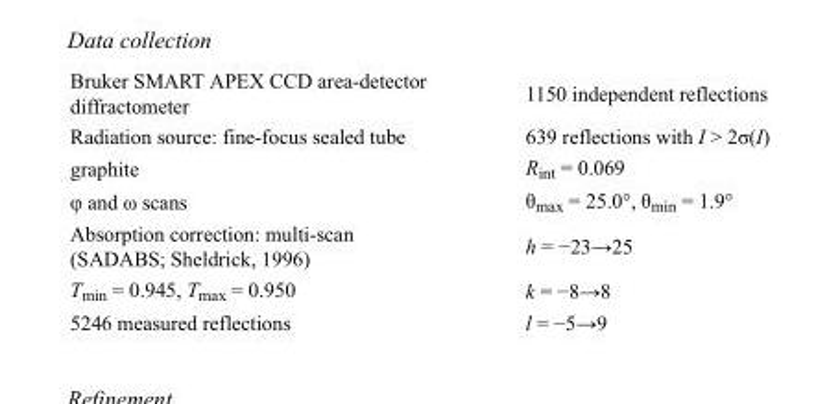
<table><tbody><tr><td>Bruker SMART APEX CCD area-detector diffractometer</td><td>1150 independent reflections</td></tr><tr><td>Radiation source: fine-focus sealed tube</td><td>639 reflections with I &gt; 2σ(I)</td></tr><tr><td>graphite</td><td>R<sub>int</sub> = 0.069</td></tr><tr><td>φ and ω scans</td><td>θ<sub>max</sub> = 25.0°, θ<sub>min</sub> = 1.9°</td></tr><tr><td>Absorption correction: multi-scan (SADABS; Sheldrick, 1996)</td><td>h = −23→25</td></tr><tr><td>T<sub>min</sub> = 0.945, T<sub>max</sub> = 0.950</td><td>k = −8→8</td></tr><tr><td>5246 measured reflections</td><td>l = −5→9</td></tr></tbody></table>